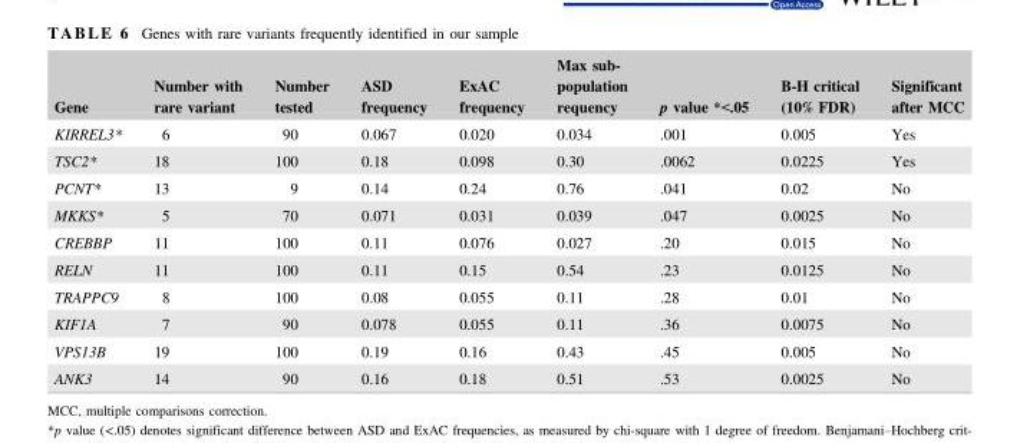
<table><thead><tr><td>Gene</td><td>Number with rare variant</td><td>Number tested</td><td>ASD frequency</td><td>ExAC frequency</td><td>Max sub- population requency</td><td>p value *&lt;.05</td><td>B-H critical (10% FDR)</td><td>Significant after MCC</td></tr></thead><tbody><tr><td>KIRREL3*</td><td>6</td><td>90</td><td>0.067</td><td>0.020</td><td>0.034</td><td>.001</td><td>0.005</td><td>Yes</td></tr><tr><td>TSC2*</td><td>18</td><td>100</td><td>0.18</td><td>0.098</td><td>0.30</td><td>.0062</td><td>0.0225</td><td>Yes</td></tr><tr><td>PCNT*</td><td>13</td><td>9</td><td>0.14</td><td>0.24</td><td>0.76</td><td>.041</td><td>0.02</td><td>No</td></tr><tr><td>MKKS*</td><td>5</td><td>70</td><td>0.071</td><td>0.031</td><td>0.039</td><td>.047</td><td>0.0025</td><td>No</td></tr><tr><td>CREBBP</td><td>11</td><td>100</td><td>0.11</td><td>0.076</td><td>0.027</td><td>.20</td><td>0.015</td><td>No</td></tr><tr><td>RELN</td><td>11</td><td>100</td><td>0.11</td><td>0.15</td><td>0.54</td><td>.23</td><td>0.0125</td><td>No</td></tr><tr><td>TRAPPC9</td><td>8</td><td>100</td><td>0.08</td><td>0.055</td><td>0.11</td><td>.28</td><td>0.01</td><td>No</td></tr><tr><td>KIF1A</td><td>7</td><td>90</td><td>0.078</td><td>0.055</td><td>0.11</td><td>.36</td><td>0.0075</td><td>No</td></tr><tr><td>VPS13B</td><td>19</td><td>100</td><td>0.19</td><td>0.16</td><td>0.43</td><td>.45</td><td>0.005</td><td>No</td></tr><tr><td>ANK3</td><td>14</td><td>90</td><td>0.16</td><td>0.18</td><td>0.51</td><td>.53</td><td>0.0025</td><td>No</td></tr></tbody></table>